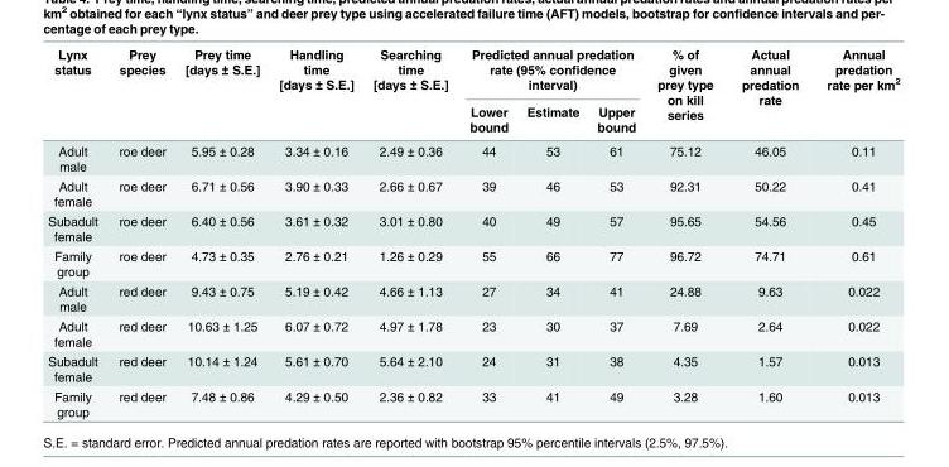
<table><thead><tr><td rowspan="2">Lynx status</td><td rowspan="2">Prey species</td><td rowspan="2">Prey time [days ± S.E.]</td><td rowspan="2">Handling time [days ± S.E.]</td><td rowspan="2">Searching time [days ± S.E.]</td><td colspan="3">Predicted annual predation rate (95% confidence interval)</td><td rowspan="2">% of given prey type on kill series</td><td rowspan="2">Actual annual predation rate</td><td rowspan="2">Annual predation rate per km<sup>2</sup></td></tr><tr><td>Lower bound</td><td>Estimate</td><td>Upper bound</td></tr></thead><tbody><tr><td>Adult male</td><td>roe deer</td><td>5.95 ± 0.28</td><td>3.34 ± 0.16</td><td>2.49 ± 0.36</td><td>44</td><td>53</td><td>61</td><td>75.12</td><td>46.05</td><td>0.11</td></tr><tr><td>Adult female</td><td>roe deer</td><td>6.71 ± 0.56</td><td>3.90 ± 0.33</td><td>2.66 ± 0.67</td><td>39</td><td>46</td><td>53</td><td>92.31</td><td>50.22</td><td>0.41</td></tr><tr><td>Subadult female</td><td>roe deer</td><td>6.40 ± 0.56</td><td>3.61 ± 0.32</td><td>3.01 ± 0.80</td><td>40</td><td>49</td><td>57</td><td>95.65</td><td>54.56</td><td>0.45</td></tr><tr><td>Family group</td><td>roe deer</td><td>4.73 ± 0.35</td><td>2.76 ± 0.21</td><td>1.26 ± 0.29</td><td>55</td><td>66</td><td>77</td><td>96.72</td><td>74.71</td><td>0.61</td></tr><tr><td>Adult male</td><td>red deer</td><td>9.43 ± 0.75</td><td>5.19 ± 0.42</td><td>4.66 ± 1.13</td><td>27</td><td>34</td><td>41</td><td>24.88</td><td>9.63</td><td>0.022</td></tr><tr><td>Adult female</td><td>red deer</td><td>10.63 ± 1.25</td><td>6.07 ± 0.72</td><td>4.97 ± 1.78</td><td>23</td><td>30</td><td>37</td><td>7.69</td><td>2.64</td><td>0.022</td></tr><tr><td>Subadult female</td><td>red deer</td><td>10.14 ± 1.24</td><td>5.61 ± 0.70</td><td>5.64 ± 2.10</td><td>24</td><td>31</td><td>38</td><td>4.35</td><td>1.57</td><td>0.013</td></tr><tr><td>Family group</td><td>red deer</td><td>7.48 ± 0.86</td><td>4.29 ± 0.50</td><td>2.36 ± 0.82</td><td>33</td><td>41</td><td>49</td><td>3.28</td><td>1.60</td><td>0.013</td></tr></tbody></table>